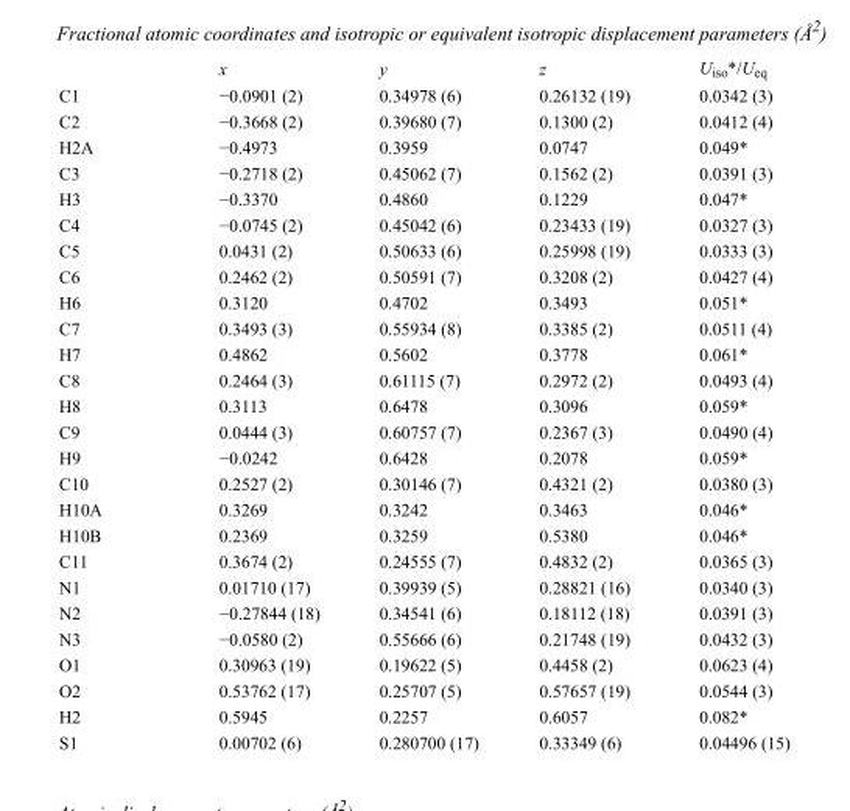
<table><thead><tr><td></td><td>x</td><td>y</td><td>z</td><td>U<sub>iso</sub>*/U<sub>eq</sub></td></tr></thead><tbody><tr><td>C1</td><td>−0.0901 (2)</td><td>0.34978 (6)</td><td>0.26132 (19)</td><td>0.0342 (3)</td></tr><tr><td>C2</td><td>−0.3668 (2)</td><td>0.39680 (7)</td><td>0.1300 (2)</td><td>0.0412 (4)</td></tr><tr><td>H2A</td><td>−0.4973</td><td>0.3959</td><td>0.0747</td><td>0.049*</td></tr><tr><td>C3</td><td>−0.2718 (2)</td><td>0.45062 (7)</td><td>0.1562 (2)</td><td>0.0391 (3)</td></tr><tr><td>H3</td><td>−0.3370</td><td>0.4860</td><td>0.1229</td><td>0.047*</td></tr><tr><td>C4</td><td>−0.0745 (2)</td><td>0.45042 (6)</td><td>0.23433 (19)</td><td>0.0327 (3)</td></tr><tr><td>C5</td><td>0.0431 (2)</td><td>0.50633 (6)</td><td>0.25998 (19)</td><td>0.0333 (3)</td></tr><tr><td>C6</td><td>0.2462 (2)</td><td>0.50591 (7)</td><td>0.3208 (2)</td><td>0.0427 (4)</td></tr><tr><td>H6</td><td>0.3120</td><td>0.4702</td><td>0.3493</td><td>0.051*</td></tr><tr><td>C7</td><td>0.3493 (3)</td><td>0.55934 (8)</td><td>0.3385 (2)</td><td>0.0511 (4)</td></tr><tr><td>H7</td><td>0.4862</td><td>0.5602</td><td>0.3778</td><td>0.061*</td></tr><tr><td>C8</td><td>0.2464 (3)</td><td>0.61115 (7)</td><td>0.2972 (2)</td><td>0.0493 (4)</td></tr><tr><td>H8</td><td>0.3113</td><td>0.6478</td><td>0.3096</td><td>0.059*</td></tr><tr><td>C9</td><td>0.0444 (3)</td><td>0.60757 (7)</td><td>0.2367 (3)</td><td>0.0490 (4)</td></tr><tr><td>H9</td><td>−0.0242</td><td>0.6428</td><td>0.2078</td><td>0.059*</td></tr><tr><td>C10</td><td>0.2527 (2)</td><td>0.30146 (7)</td><td>0.4321 (2)</td><td>0.0380 (3)</td></tr><tr><td>H10A</td><td>0.3269</td><td>0.3242</td><td>0.3463</td><td>0.046*</td></tr><tr><td>H10B</td><td>0.2369</td><td>0.3259</td><td>0.5380</td><td>0.046*</td></tr><tr><td>C11</td><td>0.3674 (2)</td><td>0.24555 (7)</td><td>0.4832 (2)</td><td>0.0365 (3)</td></tr><tr><td>N1</td><td>0.01710 (17)</td><td>0.39939 (5)</td><td>0.28821 (16)</td><td>0.0340 (3)</td></tr><tr><td>N2</td><td>−0.27844 (18)</td><td>0.34541 (6)</td><td>0.18112 (18)</td><td>0.0391 (3)</td></tr><tr><td>N3</td><td>−0.0580 (2)</td><td>0.55666 (6)</td><td>0.21748 (19)</td><td>0.0432 (3)</td></tr><tr><td>O1</td><td>0.30963 (19)</td><td>0.19622 (5)</td><td>0.4458 (2)</td><td>0.0623 (4)</td></tr><tr><td>O2</td><td>0.53762 (17)</td><td>0.25707 (5)</td><td>0.57657 (19)</td><td>0.0544 (3)</td></tr><tr><td>H2</td><td>0.5945</td><td>0.2257</td><td>0.6057</td><td>0.082*</td></tr><tr><td>S1</td><td>0.00702 (6)</td><td>0.280700 (17)</td><td>0.33349 (6)</td><td>0.04496 (15)</td></tr></tbody></table>